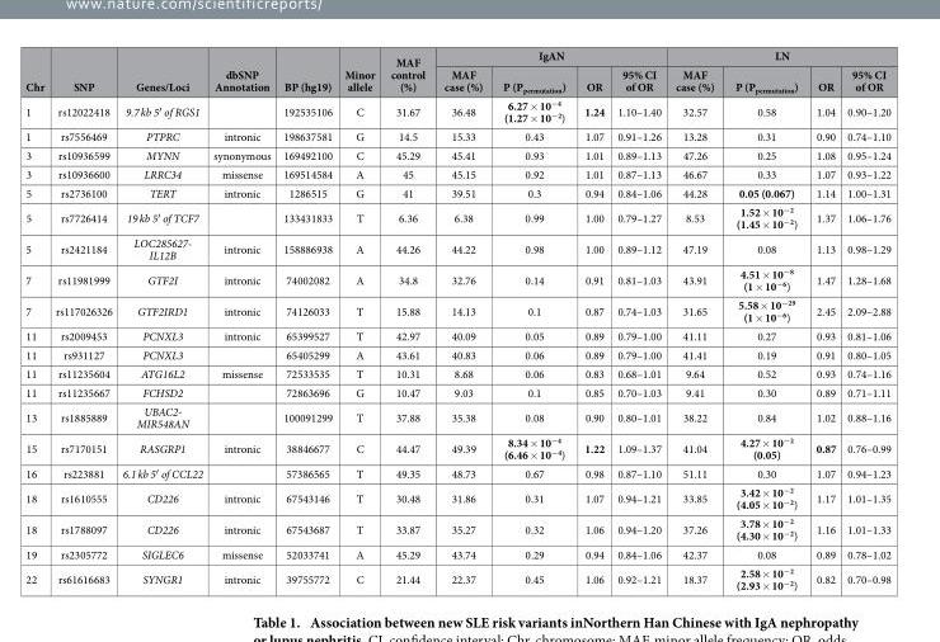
<table><thead><tr><td rowspan="2">Chr</td><td rowspan="2">SNP</td><td rowspan="2">Genes/Loci</td><td rowspan="2">dbSNP Annotation</td><td rowspan="2">BP (hg19)</td><td rowspan="2">Minor allele</td><td rowspan="2">MAF control (%)</td><td colspan="4">IgAN</td><td colspan="4">LN</td></tr><tr><td>MAF case (%)</td><td>P (P<sub>permutation</sub>)</td><td>OR</td><td>95% CI of OR</td><td>MAF case (%)</td><td>P (P<sub>permutation</sub>)</td><td>OR</td><td>95% CI of OR</td></tr></thead><tbody><tr><td>1</td><td>rs12022418</td><td>9.7 kb 5′ of RGS1</td><td></td><td>192535106</td><td>C</td><td>31.67</td><td>36.48</td><td>6.27 × 10<sup>−4</sup> (1.27 × 10<sup>−2</sup>)</td><td>1.24</td><td>1.10–1.40</td><td>32.57</td><td>0.58</td><td>1.04</td><td>0.90–1.20</td></tr><tr><td>1</td><td>rs7556469</td><td>PTPRC</td><td>intronic</td><td>198637581</td><td>G</td><td>14.5</td><td>15.33</td><td>0.43</td><td>1.07</td><td>0.91–1.26</td><td>13.28</td><td>0.31</td><td>0.90</td><td>0.74–1.10</td></tr><tr><td>3</td><td>rs10936599</td><td>MYNN</td><td>synonymous</td><td>169492100</td><td>C</td><td>45.29</td><td>45.41</td><td>0.93</td><td>1.01</td><td>0.89–1.13</td><td>47.26</td><td>0.25</td><td>1.08</td><td>0.95–1.24</td></tr><tr><td>3</td><td>rs10936600</td><td>LRRC34</td><td>missense</td><td>169514584</td><td>A</td><td>45</td><td>45.15</td><td>0.92</td><td>1.01</td><td>0.87–1.13</td><td>46.67</td><td>0.33</td><td>1.07</td><td>0.93–1.22</td></tr><tr><td>5</td><td>rs2736100</td><td>TERT</td><td>intronic</td><td>1286515</td><td>G</td><td>41</td><td>39.51</td><td>0.3</td><td>0.94</td><td>0.84–1.06</td><td>44.28</td><td>0.05 (0.067)</td><td>1.14</td><td>1.00–1.31</td></tr><tr><td>5</td><td>rs7726414</td><td>19 kb 5′ of TCF7</td><td></td><td>133431833</td><td>T</td><td>6.36</td><td>6.38</td><td>0.99</td><td>1.00</td><td>0.79–1.27</td><td>8.53</td><td>1.52 × 10<sup>−2</sup> (1.45 × 10<sup>−2</sup>)</td><td>1.37</td><td>1.06–1.76</td></tr><tr><td>5</td><td>rs2421184</td><td>LOC285627- IL12B</td><td>intronic</td><td>158886938</td><td>A</td><td>44.26</td><td>44.22</td><td>0.98</td><td>1.00</td><td>0.89–1.12</td><td>47.19</td><td>0.08</td><td>1.13</td><td>0.98–1.29</td></tr><tr><td>7</td><td>rs11981999</td><td>GTF2I</td><td>intronic</td><td>74002082</td><td>A</td><td>34.8</td><td>32.76</td><td>0.14</td><td>0.91</td><td>0.81–1.03</td><td>43.91</td><td>4.51 × 10<sup>−8</sup> (1 × 10<sup>−6</sup>)</td><td>1.47</td><td>1.28–1.68</td></tr><tr><td>7</td><td>rs117026326</td><td>GTF2IRD1</td><td>intronic</td><td>74126033</td><td>T</td><td>15.88</td><td>14.13</td><td>0.1</td><td>0.87</td><td>0.74–1.03</td><td>31.65</td><td>5.58 × 10<sup>−29</sup> (1 × 10<sup>−6</sup>)</td><td>2.45</td><td>2.09–2.88</td></tr><tr><td>11</td><td>rs2009453</td><td>PCNXL3</td><td>intronic</td><td>65399527</td><td>T</td><td>42.97</td><td>40.09</td><td>0.05</td><td>0.89</td><td>0.79–1.00</td><td>41.11</td><td>0.27</td><td>0.93</td><td>0.81–1.06</td></tr><tr><td>11</td><td>rs931127</td><td>PCNXL3</td><td></td><td>65405299</td><td>A</td><td>43.61</td><td>40.83</td><td>0.06</td><td>0.89</td><td>0.79–1.00</td><td>41.41</td><td>0.19</td><td>0.91</td><td>0.80–1.05</td></tr><tr><td>11</td><td>rs11235604</td><td>ATG16L2</td><td>missense</td><td>72533535</td><td>T</td><td>10.31</td><td>8.68</td><td>0.06</td><td>0.83</td><td>0.68–1.01</td><td>9.64</td><td>0.52</td><td>0.93</td><td>0.74–1.16</td></tr><tr><td>11</td><td>rs11235667</td><td>FCHSD2</td><td></td><td>72863696</td><td>G</td><td>10.47</td><td>9.03</td><td>0.1</td><td>0.85</td><td>0.70–1.03</td><td>9.41</td><td>0.30</td><td>0.89</td><td>0.71–1.11</td></tr><tr><td>13</td><td>rs1885889</td><td>UBAC2- MIR548AN</td><td></td><td>100091299</td><td>T</td><td>37.88</td><td>35.38</td><td>0.08</td><td>0.90</td><td>0.80–1.01</td><td>38.22</td><td>0.84</td><td>1.02</td><td>0.88–1.16</td></tr><tr><td>15</td><td>rs7170151</td><td>RASGRP1</td><td>intronic</td><td>38846677</td><td>C</td><td>44.47</td><td>49.39</td><td>8.34 × 10<sup>−4</sup> (6.46 × 10<sup>−4</sup>)</td><td>1.22</td><td>1.09–1.37</td><td>41.04</td><td>4.27 × 10<sup>−2</sup> (0.05)</td><td>0.87</td><td>0.76–0.99</td></tr><tr><td>16</td><td>rs223881</td><td>6.1 kb 5′ of CCL22</td><td></td><td>57386565</td><td>T</td><td>49.35</td><td>48.73</td><td>0.67</td><td>0.98</td><td>0.87–1.10</td><td>51.11</td><td>0.30</td><td>1.07</td><td>0.94–1.23</td></tr><tr><td>18</td><td>rs1610555</td><td>CD226</td><td>intronic</td><td>67543146</td><td>T</td><td>30.48</td><td>31.86</td><td>0.31</td><td>1.07</td><td>0.94–1.21</td><td>33.85</td><td>3.42 × 10<sup>−2</sup> (4.05 × 10<sup>−2</sup>)</td><td>1.17</td><td>1.01–1.35</td></tr><tr><td>18</td><td>rs1788097</td><td>CD226</td><td>intronic</td><td>67543687</td><td>T</td><td>33.87</td><td>35.27</td><td>0.32</td><td>1.06</td><td>0.94–1.20</td><td>37.26</td><td>3.78 × 10<sup>−2</sup> (4.30 × 10<sup>−2</sup>)</td><td>1.16</td><td>1.01–1.33</td></tr><tr><td>19</td><td>rs2305772</td><td>SIGLEC6</td><td>missense</td><td>52033741</td><td>A</td><td>45.29</td><td>43.74</td><td>0.29</td><td>0.94</td><td>0.84–1.06</td><td>42.37</td><td>0.08</td><td>0.89</td><td>0.78–1.02</td></tr><tr><td>22</td><td>rs61616683</td><td>SYNGR1</td><td>intronic</td><td>39755772</td><td>C</td><td>21.44</td><td>22.37</td><td>0.45</td><td>1.06</td><td>0.92–1.21</td><td>18.37</td><td>2.58 × 10<sup>−2</sup> (2.93 × 10<sup>−2</sup>)</td><td>0.82</td><td>0.70–0.98</td></tr></tbody></table>